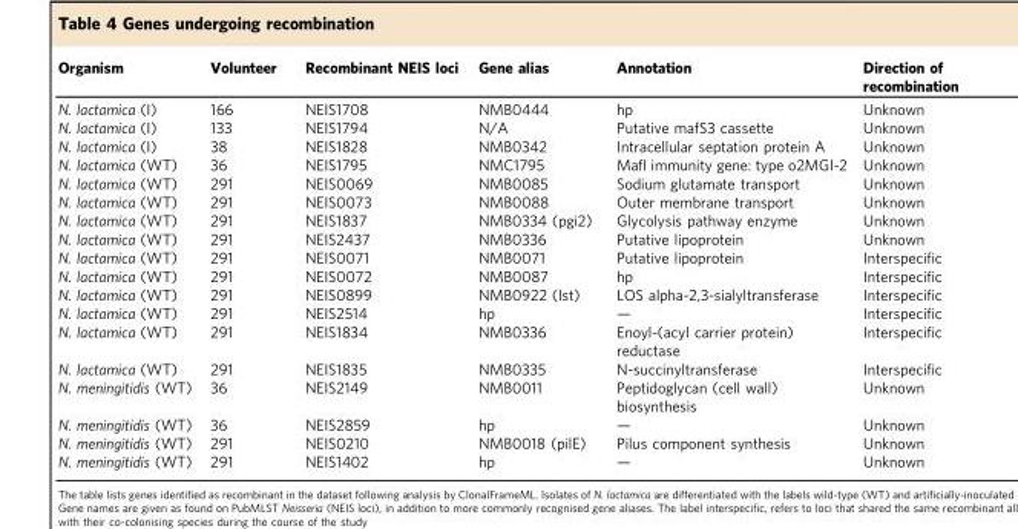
<table><thead><tr><td>Organism</td><td>Volunteer</td><td>Recombinant NEIS loci</td><td>Gene alias</td><td>Annotation</td><td>Direction of recombination</td></tr></thead><tbody><tr><td>N. lactamica (I)</td><td>166</td><td>NEIS1708</td><td>NMB0444</td><td>hp</td><td>Unknown</td></tr><tr><td>N. lactamica (I)</td><td>133</td><td>NEIS1794</td><td>N/A</td><td>Putative mafS3 cassette</td><td>Unknown</td></tr><tr><td>N. lactamica (I)</td><td>38</td><td>NEIS1828</td><td>NMB0342</td><td>Intracellular septation protein A</td><td>Unknown</td></tr><tr><td>N. lactamica (WT)</td><td>36</td><td>NEIS1795</td><td>NMC1795</td><td>Mafl immunity gene: type o2MGI-2</td><td>Unknown</td></tr><tr><td>N. lactamica (WT)</td><td>291</td><td>NEIS0069</td><td>NMB0085</td><td>Sodium glutamate transport</td><td>Unknown</td></tr><tr><td>N. lactamica (WT)</td><td>291</td><td>NEIS0073</td><td>NMB0088</td><td>Outer membrane transport</td><td>Unknown</td></tr><tr><td>N. lactamica (WT)</td><td>291</td><td>NEIS1837</td><td>NMB0334 (pgi2)</td><td>Glycolysis pathway enzyme</td><td>Unknown</td></tr><tr><td>N. lactamica (WT)</td><td>291</td><td>NEIS2437</td><td>NMB0336</td><td>Putative lipoprotein</td><td>Unknown</td></tr><tr><td>N. lactamica (WT)</td><td>291</td><td>NEIS0071</td><td>NMB0071</td><td>Putative lipoprotein</td><td>Interspecific</td></tr><tr><td>N. lactamica (WT)</td><td>291</td><td>NEIS0072</td><td>NMB0087</td><td>hp</td><td>Interspecific</td></tr><tr><td>N. lactamica (WT)</td><td>291</td><td>NEIS0899</td><td>NMB0922 (lst)</td><td>LOS alpha-2,3-sialyltransferase</td><td>Interspecific</td></tr><tr><td>N. lactamica (WT)</td><td>291</td><td>NEIS2514</td><td>hp</td><td>—</td><td>Interspecific</td></tr><tr><td>N. lactamica (WT)</td><td>291</td><td>NEIS1834</td><td>NMB0336</td><td>Enoyl-(acyl carrier protein) reductase</td><td>Interspecific</td></tr><tr><td>N. lactamica (WT)</td><td>291</td><td>NEIS1835</td><td>NMB0335</td><td>N-succinyltransferase</td><td>Interspecific</td></tr><tr><td>N. meningitidis (WT)</td><td>36</td><td>NEIS2149</td><td>NMB0011</td><td>Peptidoglycan (cell wall) biosynthesis</td><td>Unknown</td></tr><tr><td>N. meningitidis (WT)</td><td>36</td><td>NEIS2859</td><td>hp</td><td>—</td><td>Unknown</td></tr><tr><td>N. meningitidis (WT)</td><td>291</td><td>NEIS0210</td><td>NMB0018 (pilE)</td><td>Pilus component synthesis</td><td>Unknown</td></tr><tr><td>N. meningitidis (WT)</td><td>291</td><td>NEIS1402</td><td>hp</td><td>—</td><td>Unknown</td></tr></tbody></table>